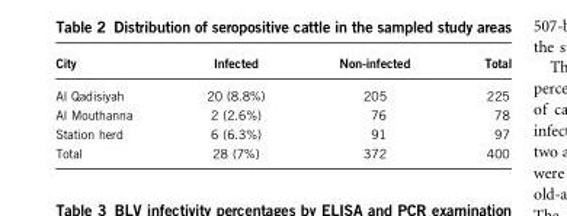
<table><thead><tr><td>City</td><td>Infected</td><td>Non-infected</td><td>Total</td></tr></thead><tbody><tr><td>Al Qadisiyah</td><td>20 (8.8%)</td><td>205</td><td>225</td></tr><tr><td>Al Mouthanna</td><td>2 (2.6%)</td><td>76</td><td>78</td></tr><tr><td>Station herd</td><td>6 (6.3%)</td><td>91</td><td>97</td></tr><tr><td>Total</td><td>28 (7%)</td><td>372</td><td>400</td></tr></tbody></table>